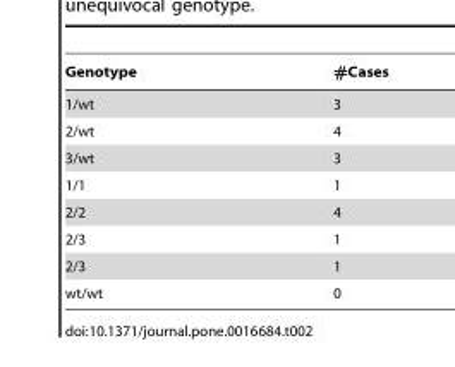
<table><thead><tr><td>Genotype</td><td>#Cases</td></tr></thead><tbody><tr><td>1/wt</td><td>3</td></tr><tr><td>2/wt</td><td>4</td></tr><tr><td>3/wt</td><td>3</td></tr><tr><td>1/1</td><td>1</td></tr><tr><td>2/2</td><td>4</td></tr><tr><td>2/3</td><td>1</td></tr><tr><td>2/3</td><td>1</td></tr><tr><td>wt/wt</td><td>0</td></tr></tbody></table>